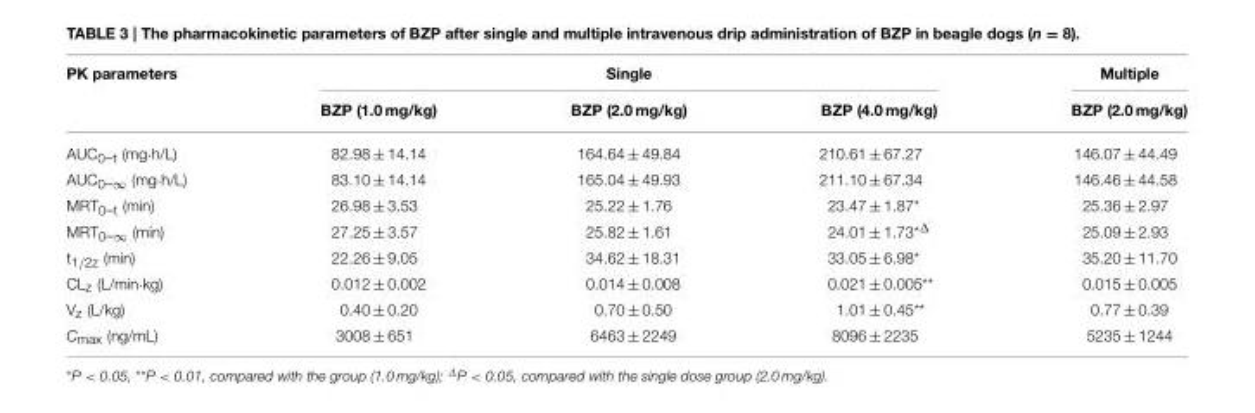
<table><thead><tr><td rowspan="2">PK parameters</td><td colspan="3">Single</td><td rowspan="2">Multiple BZP (2.0 mg/kg)</td></tr><tr><td>BZP (1.0 mg/kg)</td><td>BZP (2.0 mg/kg)</td><td>BZP (4.0 mg/kg)</td></tr></thead><tbody><tr><td>AUC<sub>0–t</sub> (mg·h/L)</td><td>82.98 ± 14.14</td><td>164.64 ± 49.84</td><td>210.61 ± 67.27</td><td>146.07 ± 44.49</td></tr><tr><td>AUC<sub>0–∞</sub> (mg·h/L)</td><td>83.10 ± 14.14</td><td>165.04 ± 49.93</td><td>211.10 ± 67.34</td><td>146.46 ± 44.58</td></tr><tr><td>MRT<sub>0–t</sub> (min)</td><td>26.98 ± 3.53</td><td>25.22 ± 1.76</td><td>23.47 ± 1.87*</td><td>25.36 ± 2.97</td></tr><tr><td>MRT<sub>0–∞</sub> (min)</td><td>27.25 ± 3.57</td><td>25.82 ± 1.61</td><td>24.01 ± 1.73<sup>*Δ</sup></td><td>25.09 ± 2.93</td></tr><tr><td>t<sub>1/2z</sub> (min)</td><td>22.26 ± 9.05</td><td>34.62 ± 18.31</td><td>33.05 ± 6.98*</td><td>35.20 ± 11.70</td></tr><tr><td>CL<sub>z</sub> (L/min·kg)</td><td>0.012 ± 0.002</td><td>0.014 ± 0.008</td><td>0.021 ± 0.005**</td><td>0.015 ± 0.005</td></tr><tr><td>V<sub>z</sub> (L/kg)</td><td>0.40 ± 0.20</td><td>0.70 ± 0.50</td><td>1.01 ± 0.45**</td><td>0.77 ± 0.39</td></tr><tr><td>C<sub>max</sub> (ng/mL)</td><td>3008 ± 651</td><td>6463 ± 2249</td><td>8096 ± 2235</td><td>5235 ± 1244</td></tr></tbody></table>